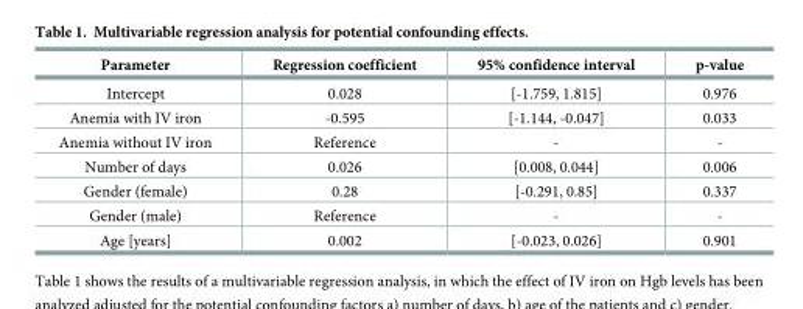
<table><thead><tr><td>Parameter</td><td>Regression coefficient</td><td>95% confidence interval</td><td>p-value</td></tr></thead><tbody><tr><td>Intercept</td><td>0.028</td><td>[-1.759, 1.815]</td><td>0.976</td></tr><tr><td>Anemia with IV iron</td><td>-0.595</td><td>[-1.144, -0.047]</td><td>0.033</td></tr><tr><td>Anemia without IV iron</td><td>Reference</td><td>-</td><td>-</td></tr><tr><td>Number of days</td><td>0.026</td><td>[0.008, 0.044]</td><td>0.006</td></tr><tr><td>Gender (female)</td><td>0.28</td><td>[-0.291, 0.85]</td><td>0.337</td></tr><tr><td>Gender (male)</td><td>Reference</td><td>-</td><td>-</td></tr><tr><td>Age [years]</td><td>0.002</td><td>[-0.023, 0.026]</td><td>0.901</td></tr></tbody></table>